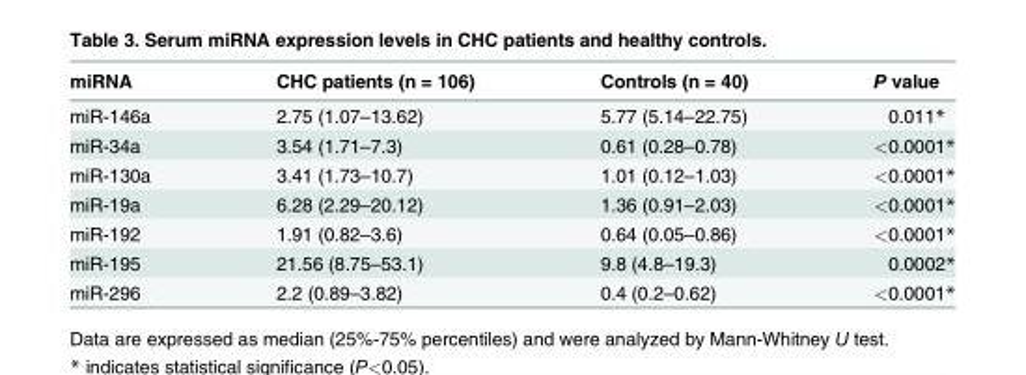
<table><thead><tr><td>miRNA</td><td>CHC patients (n = 106)</td><td>Controls (n = 40)</td><td>P value</td></tr></thead><tbody><tr><td>miR-146a</td><td>2.75 (1.07–13.62)</td><td>5.77 (5.14–22.75)</td><td>0.011*</td></tr><tr><td>miR-34a</td><td>3.54 (1.71–7.3)</td><td>0.61 (0.28–0.78)</td><td>&lt;0.0001*</td></tr><tr><td>miR-130a</td><td>3.41 (1.73–10.7)</td><td>1.01 (0.12–1.03)</td><td>&lt;0.0001*</td></tr><tr><td>miR-19a</td><td>6.28 (2.29–20.12)</td><td>1.36 (0.91–2.03)</td><td>&lt;0.0001*</td></tr><tr><td>miR-192</td><td>1.91 (0.82–3.6)</td><td>0.64 (0.05–0.86)</td><td>&lt;0.0001*</td></tr><tr><td>miR-195</td><td>21.56 (8.75–53.1)</td><td>9.8 (4.8–19.3)</td><td>0.0002*</td></tr><tr><td>miR-296</td><td>2.2 (0.89–3.82)</td><td>0.4 (0.2–0.62)</td><td>&lt;0.0001*</td></tr></tbody></table>